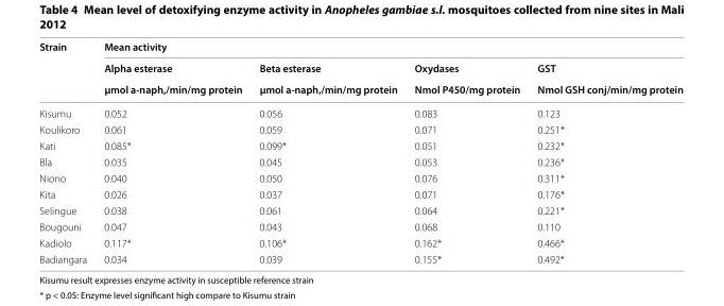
<table><thead><tr><td rowspan="3">Strain</td><td colspan="4">Mean activity</td></tr><tr><td rowspan="2">Alpha esterase µmol a-naph,/min/mg protein</td><td rowspan="2">Beta esterase µmol a-naph,/min/mg protein</td><td rowspan="2">Oxydases Nmol P450/mg protein</td><td rowspan="2">GST Nmol GSH conj/min/mg protein</td></tr><tr></tr></thead><tbody><tr><td>Kisumu</td><td>0.052</td><td>0.056</td><td>0.083</td><td>0.123</td></tr><tr><td>Koulikoro</td><td>0.061</td><td>0.059</td><td>0.071</td><td>0.251*</td></tr><tr><td>Kati</td><td>0.085*</td><td>0.099*</td><td>0.051</td><td>0.232*</td></tr><tr><td>Bla</td><td>0.035</td><td>0.045</td><td>0.053</td><td>0.236*</td></tr><tr><td>Niono</td><td>0.040</td><td>0.050</td><td>0.076</td><td>0.311*</td></tr><tr><td>Kita</td><td>0.026</td><td>0.037</td><td>0.071</td><td>0.176*</td></tr><tr><td>Selingue</td><td>0.038</td><td>0.061</td><td>0.064</td><td>0.221*</td></tr><tr><td>Bougouni</td><td>0.047</td><td>0.043</td><td>0.068</td><td>0.110</td></tr><tr><td>Kadiolo</td><td>0.117*</td><td>0.106*</td><td>0.162*</td><td>0.466*</td></tr><tr><td>Badiangara</td><td>0.034</td><td>0.039</td><td>0.155*</td><td>0.492*</td></tr></tbody></table>